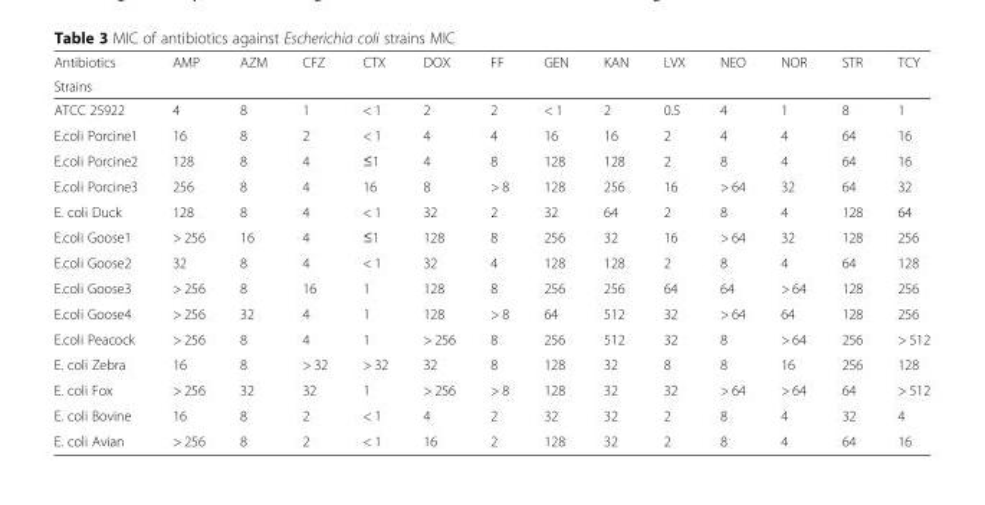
<table><thead><tr><td rowspan="2">Antibiotics Strains</td><td rowspan="2">AMP</td><td rowspan="2">AZM</td><td rowspan="2">CFZ</td><td rowspan="2">CTX</td><td rowspan="2">DOX</td><td rowspan="2">FF</td><td rowspan="2">GEN</td><td rowspan="2">KAN</td><td rowspan="2">LVX</td><td rowspan="2">NEO</td><td rowspan="2">NOR</td><td rowspan="2">STR</td><td rowspan="2">TCY</td></tr><tr></tr></thead><tbody><tr><td>ATCC 25922</td><td>4</td><td>8</td><td>1</td><td>&lt; 1</td><td>2</td><td>2</td><td>&lt; 1</td><td>2</td><td>0.5</td><td>4</td><td>1</td><td>8</td><td>1</td></tr><tr><td>E.coli Porcine1</td><td>16</td><td>8</td><td>2</td><td>&lt; 1</td><td>4</td><td>4</td><td>16</td><td>16</td><td>2</td><td>4</td><td>4</td><td>64</td><td>16</td></tr><tr><td>E.coli Porcine2</td><td>128</td><td>8</td><td>4</td><td>≤1</td><td>4</td><td>8</td><td>128</td><td>128</td><td>2</td><td>8</td><td>4</td><td>64</td><td>16</td></tr><tr><td>E.coli Porcine3</td><td>256</td><td>8</td><td>4</td><td>16</td><td>8</td><td>&gt; 8</td><td>128</td><td>256</td><td>16</td><td>&gt; 64</td><td>32</td><td>64</td><td>32</td></tr><tr><td>E. coli Duck</td><td>128</td><td>8</td><td>4</td><td>&lt; 1</td><td>32</td><td>2</td><td>32</td><td>64</td><td>2</td><td>8</td><td>4</td><td>128</td><td>64</td></tr><tr><td>E.coli Goose1</td><td>&gt; 256</td><td>16</td><td>4</td><td>≤1</td><td>128</td><td>8</td><td>256</td><td>32</td><td>16</td><td>&gt; 64</td><td>32</td><td>128</td><td>256</td></tr><tr><td>E.coli Goose2</td><td>32</td><td>8</td><td>4</td><td>&lt; 1</td><td>32</td><td>4</td><td>128</td><td>128</td><td>2</td><td>8</td><td>4</td><td>64</td><td>128</td></tr><tr><td>E.coli Goose3</td><td>&gt; 256</td><td>8</td><td>16</td><td>1</td><td>128</td><td>8</td><td>256</td><td>256</td><td>64</td><td>64</td><td>&gt; 64</td><td>128</td><td>256</td></tr><tr><td>E.coli Goose4</td><td>&gt; 256</td><td>32</td><td>4</td><td>1</td><td>128</td><td>&gt; 8</td><td>64</td><td>512</td><td>32</td><td>&gt; 64</td><td>64</td><td>128</td><td>256</td></tr><tr><td>E.coli Peacock</td><td>&gt; 256</td><td>8</td><td>4</td><td>1</td><td>&gt; 256</td><td>8</td><td>256</td><td>512</td><td>32</td><td>8</td><td>&gt; 64</td><td>256</td><td>&gt; 512</td></tr><tr><td>E. coli Zebra</td><td>16</td><td>8</td><td>&gt; 32</td><td>&gt; 32</td><td>32</td><td>8</td><td>128</td><td>32</td><td>8</td><td>8</td><td>16</td><td>256</td><td>128</td></tr><tr><td>E. coli Fox</td><td>&gt; 256</td><td>32</td><td>32</td><td>1</td><td>&gt; 256</td><td>&gt; 8</td><td>128</td><td>32</td><td>32</td><td>&gt; 64</td><td>&gt; 64</td><td>64</td><td>&gt; 512</td></tr><tr><td>E. coli Bovine</td><td>16</td><td>8</td><td>2</td><td>&lt; 1</td><td>4</td><td>2</td><td>32</td><td>32</td><td>2</td><td>8</td><td>4</td><td>32</td><td>4</td></tr><tr><td>E. coli Avian</td><td>&gt; 256</td><td>8</td><td>2</td><td>&lt; 1</td><td>16</td><td>2</td><td>128</td><td>32</td><td>2</td><td>8</td><td>4</td><td>64</td><td>16</td></tr></tbody></table>